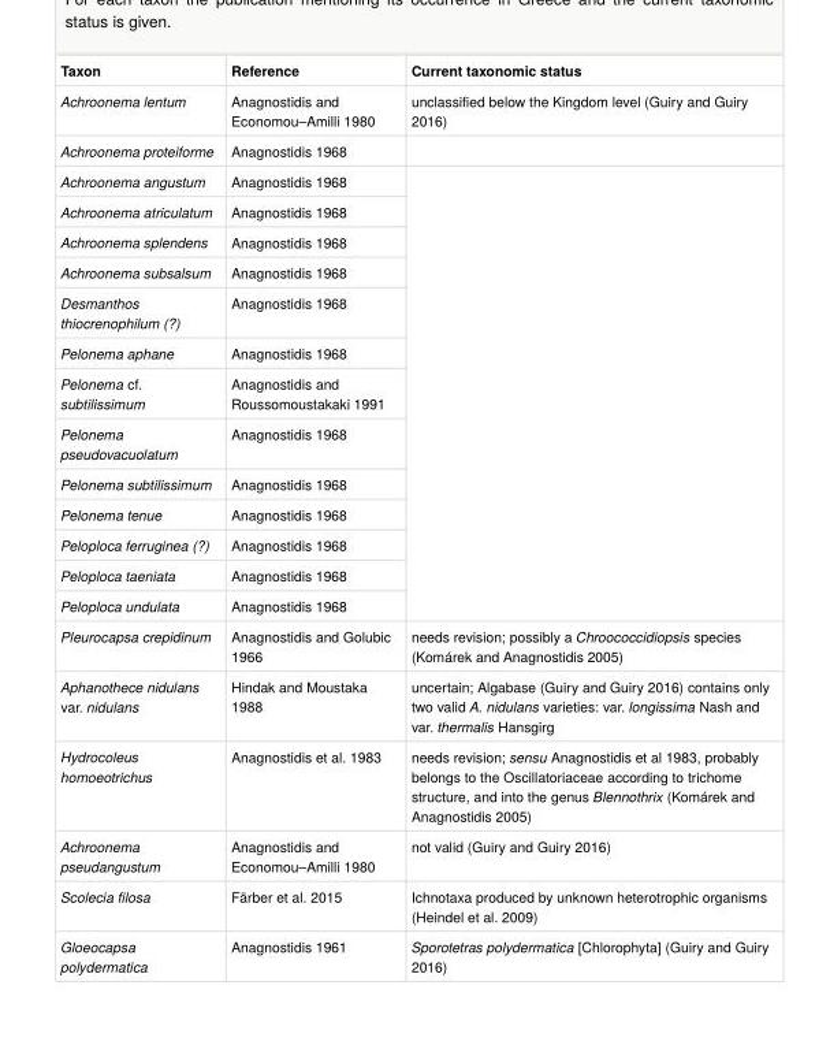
<table><tbody><tr><td>Taxon</td><td>Reference</td><td>Current taxonomic status</td></tr><tr><td>Achroonema lentum</td><td>Anagnostidis and Economou–Amilli 1980</td><td>unclassified below the Kingdom level (Guiry and Guiry 2016)</td></tr><tr><td>Achroonema proteiforme</td><td>Anagnostidis 1968</td><td></td></tr><tr><td>Achroonema angustum</td><td>Anagnostidis 1968</td><td rowspan="13"></td></tr><tr><td>Achroonema atriculatum</td><td>Anagnostidis 1968</td></tr><tr><td>Achroonema splendens</td><td>Anagnostidis 1968</td></tr><tr><td>Achroonema subsalsum</td><td>Anagnostidis 1968</td></tr><tr><td>Desmanthos thiocrenophilum (?)</td><td>Anagnostidis 1968</td></tr><tr><td>Pelonema aphane</td><td>Anagnostidis 1968</td></tr><tr><td>Pelonema cf. subtilissimum</td><td>Anagnostidis and Roussomoustakaki 1991</td></tr><tr><td>Pelonema pseudovacuolatum</td><td>Anagnostidis 1968</td></tr><tr><td>Pelonema subtilissimum</td><td>Anagnostidis 1968</td></tr><tr><td>Pelonema tenue</td><td>Anagnostidis 1968</td></tr><tr><td>Peloploca ferruginea (?)</td><td>Anagnostidis 1968</td></tr><tr><td>Peloploca taeniata</td><td>Anagnostidis 1968</td></tr><tr><td>Peloploca undulata</td><td>Anagnostidis 1968</td></tr><tr><td>Pleurocapsa crepidinum</td><td>Anagnostidis and Golubic 1966</td><td>needs revision; possibly a Chroococcidiopsis species (Komárek and Anagnostidis 2005 )</td></tr><tr><td>Aphanothece nidulans var. nidulans</td><td>Hindak and Moustaka 1988</td><td>uncertain; Algabase (Guiry and Guiry 2016) contains only two valid A. nidulans varieties: var. longissima Nash and var. thermalis Hansgirg</td></tr><tr><td>Hydrocoleus homoeotrichus</td><td>Anagnostidis et al. 1983</td><td>needs revision; sensu Anagnostidis et al 1983, probably belongs to the Oscillatoriaceae according to trichome structure, and into the genus Blennothrix (Komárek and Anagnostidis 2005)</td></tr><tr><td>Achroonema pseudangustum</td><td>Anagnostidis and Economou–Amilli 1980</td><td>not valid (Guiry and Guiry 2016)</td></tr><tr><td>Scolecia filosa</td><td>Färber et al. 2015</td><td>Ichnotaxa produced by unknown heterotrophic organisms (Heindel et al. 2009)</td></tr><tr><td>Gloeocapsa polydermatica</td><td>Anagnostidis 1961</td><td>Sporotetras polydermatica [Chlorophyta] (Guiry and Guiry 2016 )</td></tr></tbody></table>